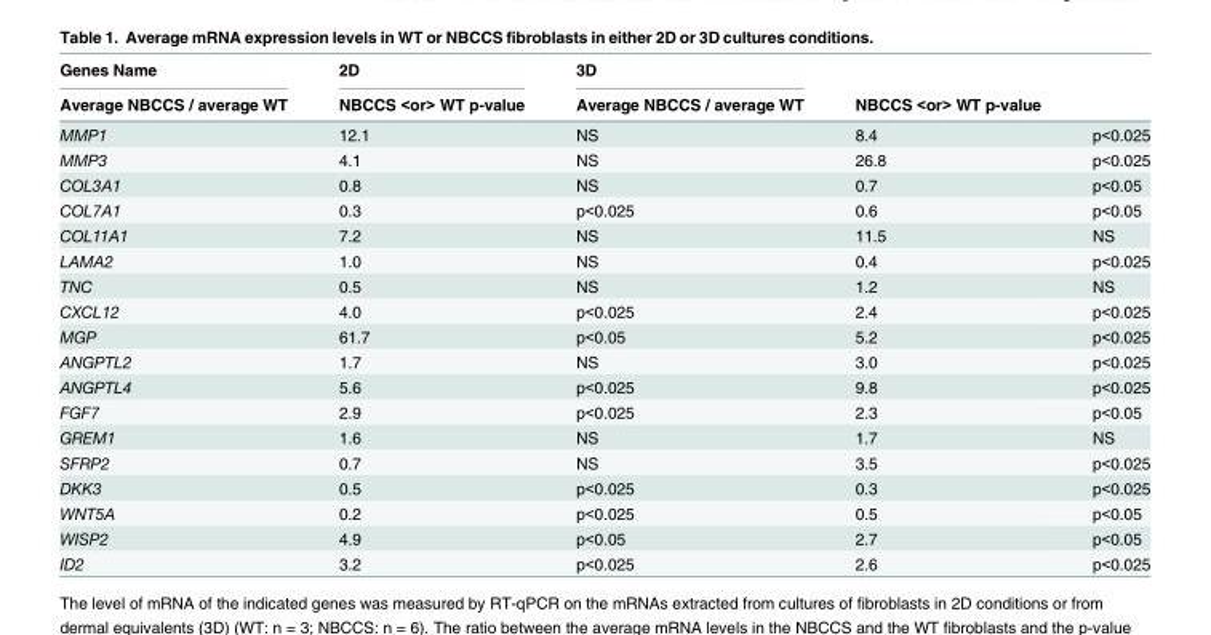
<table><thead><tr><td rowspan="2">Genes Name Average NBCCS / average WT</td><td rowspan="2">2D NBCCS &lt;or&gt; WT p-value</td><td rowspan="2">3D Average NBCCS / average WT</td><td rowspan="2">NBCCS &lt;or&gt; WT p-value</td><td rowspan="2"></td></tr><tr></tr></thead><tbody><tr><td>MMP1</td><td>12.1</td><td>NS</td><td>8.4</td><td>p&lt;0.025</td></tr><tr><td>MMP3</td><td>4.1</td><td>NS</td><td>26.8</td><td>p&lt;0.025</td></tr><tr><td>COL3A1</td><td>0.8</td><td>NS</td><td>0.7</td><td>p&lt;0.05</td></tr><tr><td>COL7A1</td><td>0.3</td><td>p&lt;0.025</td><td>0.6</td><td>p&lt;0.05</td></tr><tr><td>COL11A1</td><td>7.2</td><td>NS</td><td>11.5</td><td>NS</td></tr><tr><td>LAMA2</td><td>1.0</td><td>NS</td><td>0.4</td><td>p&lt;0.025</td></tr><tr><td>TNC</td><td>0.5</td><td>NS</td><td>1.2</td><td>NS</td></tr><tr><td>CXCL12</td><td>4.0</td><td>p&lt;0.025</td><td>2.4</td><td>p&lt;0.025</td></tr><tr><td>MGP</td><td>61.7</td><td>p&lt;0.05</td><td>5.2</td><td>p&lt;0.025</td></tr><tr><td>ANGPTL2</td><td>1.7</td><td>NS</td><td>3.0</td><td>p&lt;0.025</td></tr><tr><td>ANGPTL4</td><td>5.6</td><td>p&lt;0.025</td><td>9.8</td><td>p&lt;0.025</td></tr><tr><td>FGF7</td><td>2.9</td><td>p&lt;0.025</td><td>2.3</td><td>p&lt;0.05</td></tr><tr><td>GREM1</td><td>1.6</td><td>NS</td><td>1.7</td><td>NS</td></tr><tr><td>SFRP2</td><td>0.7</td><td>NS</td><td>3.5</td><td>p&lt;0.025</td></tr><tr><td>DKK3</td><td>0.5</td><td>p&lt;0.025</td><td>0.3</td><td>p&lt;0.025</td></tr><tr><td>WNT5A</td><td>0.2</td><td>p&lt;0.025</td><td>0.5</td><td>p&lt;0.05</td></tr><tr><td>WISP2</td><td>4.9</td><td>p&lt;0.05</td><td>2.7</td><td>p&lt;0.05</td></tr><tr><td>ID2</td><td>3.2</td><td>p&lt;0.025</td><td>2.6</td><td>p&lt;0.025</td></tr></tbody></table>